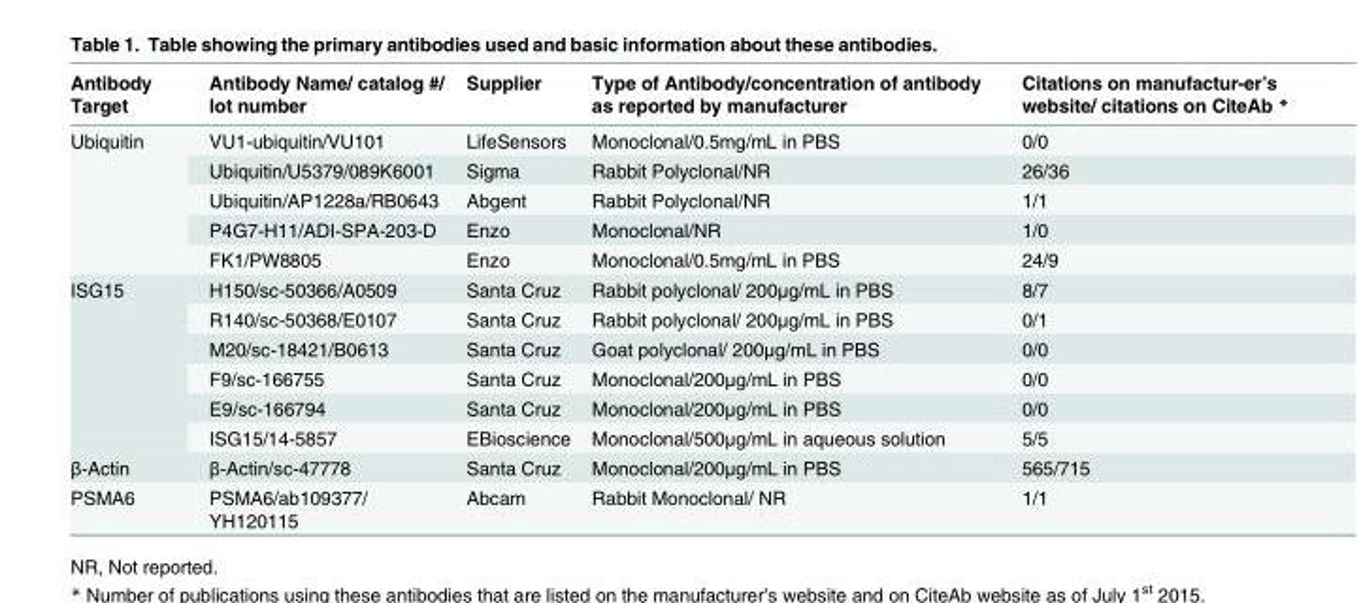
<table><thead><tr><td>Antibody Target</td><td>Antibody Name/ catalog #/ lot number</td><td>Supplier</td><td>Type of Antibody/concentration of antibody as reported by manufacturer</td><td>Citations on manufactur-er’s website/ citations on CiteAb *</td></tr></thead><tbody><tr><td rowspan="5">Ubiquitin</td><td>VU1-ubiquitin/VU101</td><td>LifeSensors</td><td>Monoclonal/0.5mg/mL in PBS</td><td>0/0</td></tr><tr><td>Ubiquitin/U5379/089K6001</td><td>Sigma</td><td>Rabbit Polyclonal/NR</td><td>26/36</td></tr><tr><td>Ubiquitin/AP1228a/RB0643</td><td>Abgent</td><td>Rabbit Polyclonal/NR</td><td>1/1</td></tr><tr><td>P4G7-H11/ADI-SPA-203-D</td><td>Enzo</td><td>Monoclonal/NR</td><td>1/0</td></tr><tr><td>FK1/PW8805</td><td>Enzo</td><td>Monoclonal/0.5mg/mL in PBS</td><td>24/9</td></tr><tr><td rowspan="6">ISG15</td><td>H150/sc-50366/A0509</td><td>Santa Cruz</td><td>Rabbit polyclonal/ 200μg/mL in PBS</td><td>8/7</td></tr><tr><td>R140/sc-50368/E0107</td><td>Santa Cruz</td><td>Rabbit polyclonal/ 200μg/mL in PBS</td><td>0/1</td></tr><tr><td>M20/sc-18421/B0613</td><td>Santa Cruz</td><td>Goat polyclonal/ 200μg/mL in PBS</td><td>0/0</td></tr><tr><td>F9/sc-166755</td><td>Santa Cruz</td><td>Monoclonal/200μg/mL in PBS</td><td>0/0</td></tr><tr><td>E9/sc-166794</td><td>Santa Cruz</td><td>Monoclonal/200μg/mL in PBS</td><td>0/0</td></tr><tr><td>ISG15/14-5857</td><td>EBioscience</td><td>Monoclonal/500μg/mL in aqueous solution</td><td>5/5</td></tr><tr><td>β-Actin</td><td>β-Actin/sc-47778</td><td>Santa Cruz</td><td>Monoclonal/200μg/mL in PBS</td><td>565/715</td></tr><tr><td>PSMA6</td><td>PSMA6/ab109377/ YH120115</td><td>Abcam</td><td>Rabbit Monoclonal/ NR</td><td>1/1</td></tr></tbody></table>